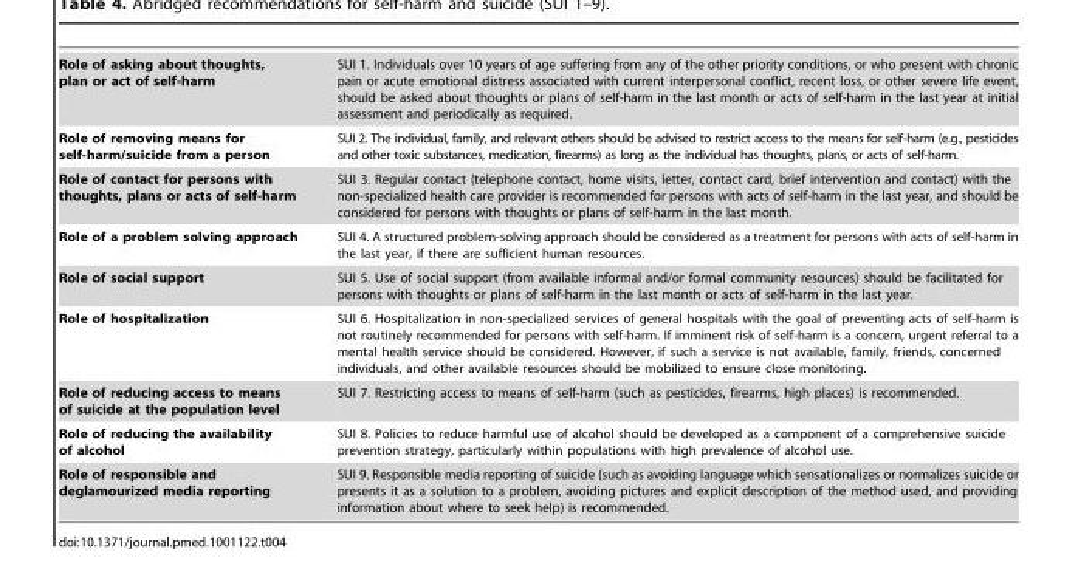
<table><tbody><tr><td>Role of asking about thoughts, plan or act of self-harm</td><td>SUI 1. Individuals over 10 years of age suffering from any of the other priority conditions, or who present with chronic pain or acute emotional distress associated with current interpersonal conflict, recent loss, or other severe life event, should be asked about thoughts or plans of self-harm in the last month or acts of self-harm in the last year at initial assessment and periodically as required.</td></tr><tr><td>Role of removing means for self-harm/suicide from a person</td><td>SUI 2. The individual, family, and relevant others should be advised to restrict access to the means for self-harm (e.g., pesticides and other toxic substances, medication, firearms) as long as the individual has thoughts, plans, or acts of self-harm.</td></tr><tr><td>Role of contact for persons with thoughts, plans or acts of self-harm</td><td>SUI 3. Regular contact (telephone contact, home visits, letter, contact card, brief intervention and contact) with the non-specialized health care provider is recommended for persons with acts of self-harm in the last year, and should be considered for persons with thoughts or plans of self-harm in the last month.</td></tr><tr><td>Role of a problem solving approach</td><td>SUI 4. A structured problem-solving approach should be considered as a treatment for persons with acts of self-harm in the last year, if there are sufficient human resources.</td></tr><tr><td>Role of social support</td><td>SUI 5. Use of social support (from available informal and/or formal community resources) should be facilitated for persons with thoughts or plans of self-harm in the last month or acts of self-harm in the last year.</td></tr><tr><td>Role of hospitalization</td><td>SUI 6. Hospitalization in non-specialized services of general hospitals with the goal of preventing acts of self-harm is not routinely recommended for persons with self-harm. If imminent risk of self-harm is a concern, urgent referral to a mental health service should be considered. However, if such a service is not available, family, friends, concerned individuals, and other available resources should be mobilized to ensure close monitoring.</td></tr><tr><td>Role of reducing access to means of suicide at the population level</td><td>SUI 7. Restricting access to means of self-harm (such as pesticides, firearms, high places) is recommended.</td></tr><tr><td>Role of reducing the availability of alcohol</td><td>SUI 8. Policies to reduce harmful use of alcohol should be developed as a component of a comprehensive suicide prevention strategy, particularly within populations with high prevalence of alcohol use.</td></tr><tr><td>Role of responsible and deglamourized media reporting</td><td>SUI 9. Responsible media reporting of suicide (such as avoiding language which sensationalizes or normalizes suicide or presents it as a solution to a problem, avoiding pictures and explicit description of the method used, and providing information about where to seek help) is recommended.</td></tr></tbody></table>